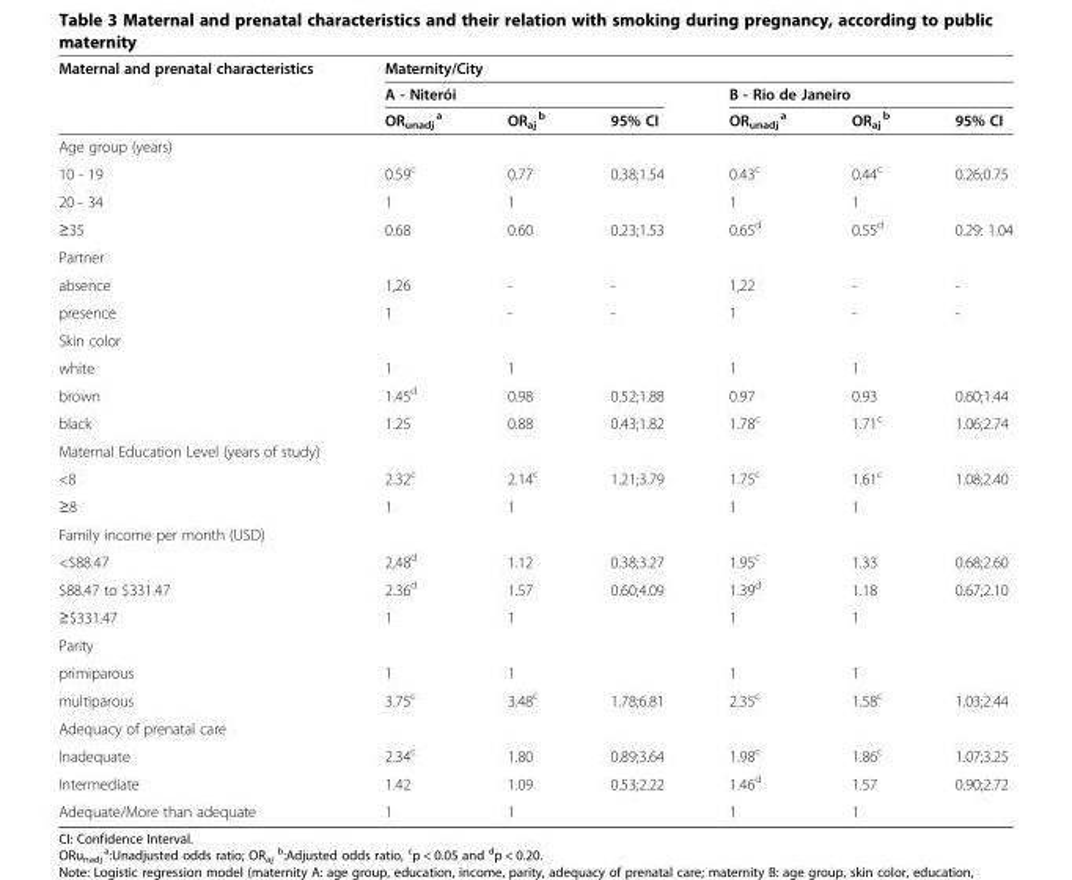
<table><thead><tr><td rowspan="3">Maternal and prenatal characteristics</td><td colspan="6">Maternity/City</td></tr><tr><td colspan="3">A - Niterói</td><td colspan="3">B - Rio de Janeiro</td></tr><tr><td>OR<sub>unadj</sub> <sup>a</sup></td><td>OR<sub>aj</sub> <sup>b</sup></td><td>95% CI</td><td>OR<sub>unadj</sub> <sup>a</sup></td><td>OR<sub>aj</sub> <sup>b</sup></td><td>95% CI</td></tr></thead><tbody><tr><td colspan="7">Age group (years)</td></tr><tr><td>10 - 19</td><td>0.59<sup>c</sup></td><td>0.77</td><td>0.38;1.54</td><td>0.43<sup>c</sup></td><td>0.44<sup>c</sup></td><td>0.26;0.75</td></tr><tr><td>20 - 34</td><td>1</td><td>1</td><td></td><td>1</td><td>1</td><td></td></tr><tr><td>≥35</td><td>0.68</td><td>0.60</td><td>0.23;1.53</td><td>0.65<sup>d</sup></td><td>0.55<sup>d</sup></td><td>0.29: 1.04</td></tr><tr><td colspan="7">Partner</td></tr><tr><td>absence</td><td>1,26</td><td>-</td><td>-</td><td>1,22</td><td>-</td><td>-</td></tr><tr><td>presence</td><td>1</td><td>-</td><td>-</td><td>1</td><td>-</td><td>-</td></tr><tr><td colspan="7">Skin color</td></tr><tr><td>white</td><td>1</td><td>1</td><td></td><td>1</td><td>1</td><td></td></tr><tr><td>brown</td><td>1.45<sup>d</sup></td><td>0.98</td><td>0.52;1.88</td><td>0.97</td><td>0.93</td><td>0.60;1.44</td></tr><tr><td>black</td><td>1.25</td><td>0.88</td><td>0.43;1.82</td><td>1.78<sup>c</sup></td><td>1.71<sup>c</sup></td><td>1.06;2.74</td></tr><tr><td colspan="7">Maternal Education Level (years of study)</td></tr><tr><td>&lt;8</td><td>2.32<sup>c</sup></td><td>2.14<sup>c</sup></td><td>1.21;3.79</td><td>1.75<sup>c</sup></td><td>1.61<sup>c</sup></td><td>1.08;2.40</td></tr><tr><td>≥8</td><td>1</td><td>1</td><td></td><td>1</td><td>1</td><td></td></tr><tr><td colspan="7">Family income per month (USD)</td></tr><tr><td>&lt;$88.47</td><td>2,48<sup>d</sup></td><td>1.12</td><td>0.38;3.27</td><td>1.95<sup>c</sup></td><td>1.33</td><td>0.68;2.60</td></tr><tr><td>$88.47 to $331.47</td><td>2.36<sup>d</sup></td><td>1.57</td><td>0.60;4.09</td><td>1.39<sup>d</sup></td><td>1.18</td><td>0.67;2.10</td></tr><tr><td>≥$331.47</td><td>1</td><td>1</td><td></td><td>1</td><td>1</td><td></td></tr><tr><td colspan="7">Parity</td></tr><tr><td>primiparous</td><td>1</td><td>1</td><td></td><td>1</td><td>1</td><td></td></tr><tr><td>multiparous</td><td>3.75<sup>c</sup></td><td>3.48<sup>c</sup></td><td>1.78;6.81</td><td>2.35<sup>c</sup></td><td>1.58<sup>c</sup></td><td>1.03;2.44</td></tr><tr><td colspan="7">Adequacy of prenatal care</td></tr><tr><td>Inadequate</td><td>2.34<sup>c</sup></td><td>1.80</td><td>0.89;3.64</td><td>1.98<sup>c</sup></td><td>1.86<sup>c</sup></td><td>1.07;3.25</td></tr><tr><td>Intermediate</td><td>1.42</td><td>1.09</td><td>0.53;2.22</td><td>1.46<sup>d</sup></td><td>1.57</td><td>0.90;2.72</td></tr><tr><td>Adequate/More than adequate</td><td>1</td><td>1</td><td></td><td>1</td><td>1</td><td></td></tr></tbody></table>